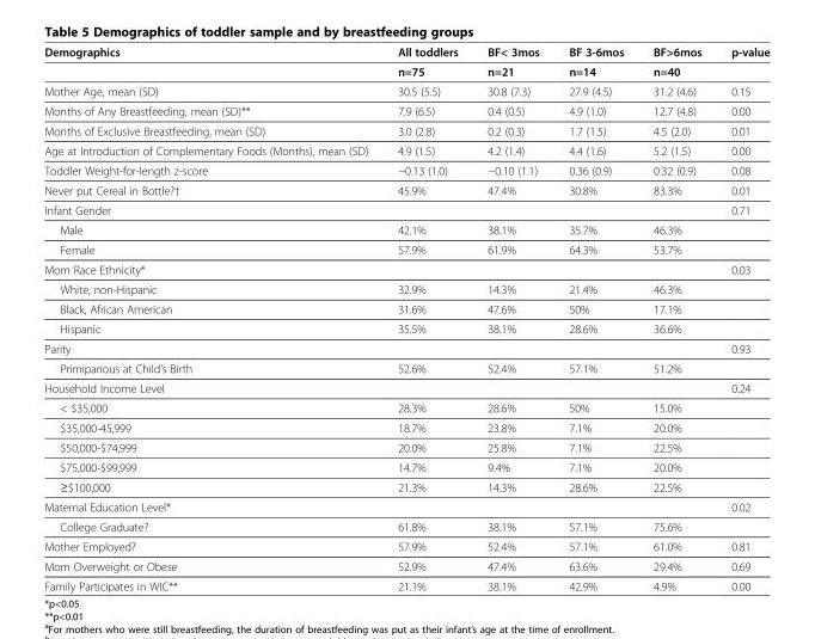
<table><thead><tr><td>Demographics</td><td>All toddlers</td><td>BF&lt; 3mos</td><td>BF 3-6mos</td><td>BF&gt;6mos</td><td>p-value</td></tr></thead><tbody><tr><td></td><td>n=75</td><td>n=21</td><td>n=14</td><td>n=40</td><td></td></tr><tr><td>Mother Age, mean (SD)</td><td>30.5 (5.5)</td><td>30.8 (7.3)</td><td>27.9 (4.5)</td><td>31.2 (4.6)</td><td>0.15</td></tr><tr><td>Months of Any Breastfeeding, mean (SD)**</td><td>7.9 (6.5)</td><td>0.4 (0.5)</td><td>4.9 (1.0)</td><td>12.7 (4.8)</td><td>0.00</td></tr><tr><td>Months of Exclusive Breastfeeding, mean (SD)</td><td>3.0 (2.8)</td><td>0.2 (0.3)</td><td>1.7 (1.5)</td><td>4.5 (2.0)</td><td>0.01</td></tr><tr><td>Age at Introduction of Complementary Foods (Months), mean (SD)</td><td>4.9 (1.5)</td><td>4.2 (1.4)</td><td>4.4 (1.6)</td><td>5.2 (1.5)</td><td>0.00</td></tr><tr><td>Toddler Weight-for-length z-score</td><td>−0.13 (1.0)</td><td>−0.10 (1.1)</td><td>0.36 (0.9)</td><td>0.32 (0.9)</td><td>0.08</td></tr><tr><td>Never put Cereal in Bottle?†</td><td>45.9%</td><td>47.4%</td><td>30.8%</td><td>83.3%</td><td>0.01</td></tr><tr><td>Infant Gender</td><td></td><td></td><td></td><td></td><td>0.71</td></tr><tr><td>Male</td><td>42.1%</td><td>38.1%</td><td>35.7%</td><td>46.3%</td><td></td></tr><tr><td>Female</td><td>57.9%</td><td>61.9%</td><td>64.3%</td><td>53.7%</td><td></td></tr><tr><td>Mom Race Ethnicity*</td><td></td><td></td><td></td><td></td><td>0.03</td></tr><tr><td>White, non-Hispanic</td><td>32.9%</td><td>14.3%</td><td>21.4%</td><td>46.3%</td><td></td></tr><tr><td>Black, African American</td><td>31.6%</td><td>47.6%</td><td>50%</td><td>17.1%</td><td></td></tr><tr><td>Hispanic</td><td>35.5%</td><td>38.1%</td><td>28.6%</td><td>36.6%</td><td></td></tr><tr><td>Parity</td><td></td><td></td><td></td><td></td><td>0.93</td></tr><tr><td>Primiparious at Child’s Birth</td><td>52.6%</td><td>52.4%</td><td>57.1%</td><td>51.2%</td><td></td></tr><tr><td>Household Income Level</td><td></td><td></td><td></td><td></td><td>0.24</td></tr><tr><td>&lt; $35,000</td><td>28.3%</td><td>28.6%</td><td>50%</td><td>15.0%</td><td></td></tr><tr><td>$35,000-45,999</td><td>18.7%</td><td>23.8%</td><td>7.1%</td><td>20.0%</td><td></td></tr><tr><td>$50,000-$74,999</td><td>20.0%</td><td>25.8%</td><td>7.1%</td><td>22.5%</td><td></td></tr><tr><td>$75,000-$99,999</td><td>14.7%</td><td>9.4%</td><td>7.1%</td><td>20.0%</td><td></td></tr><tr><td>≥$100,000</td><td>21.3%</td><td>14.3%</td><td>28.6%</td><td>22.5%</td><td></td></tr><tr><td>Maternal Education Level*</td><td></td><td></td><td></td><td></td><td>0.02</td></tr><tr><td>College Graduate?</td><td>61.8%</td><td>38.1%</td><td>57.1%</td><td>75.6%</td><td></td></tr><tr><td>Mother Employed?</td><td>57.9%</td><td>52.4%</td><td>57.1%</td><td>61.0%</td><td>0.81</td></tr><tr><td>Mom Overweight or Obese</td><td>52.9%</td><td>47.4%</td><td>63.6%</td><td>29.4%</td><td>0.69</td></tr><tr><td>Family Participates in WIC**</td><td>21.1%</td><td>38.1%</td><td>42.9%</td><td>4.9%</td><td>0.00</td></tr></tbody></table>